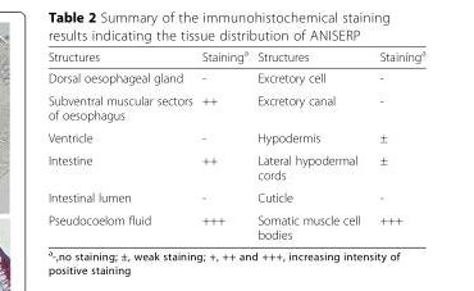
<table><thead><tr><td>Structures</td><td>Staining<sup>a</sup></td><td>Structures</td><td>Staining<sup>a</sup></td></tr></thead><tbody><tr><td>Dorsal oesophageal gland</td><td>-</td><td>Excretory cell</td><td>-</td></tr><tr><td>Subventral muscular sectors of oesophagus</td><td>++</td><td>Excretory canal</td><td>-</td></tr><tr><td>Ventricle</td><td>-</td><td>Hypodermis</td><td>±</td></tr><tr><td>Intestine</td><td>++</td><td>Lateral hypodermal cords</td><td>±</td></tr><tr><td>Intestinal lumen</td><td>-</td><td>Cuticle</td><td>-</td></tr><tr><td>Pseudocoelom fluid</td><td>+++</td><td>Somatic muscle cell bodies</td><td>+++</td></tr></tbody></table>